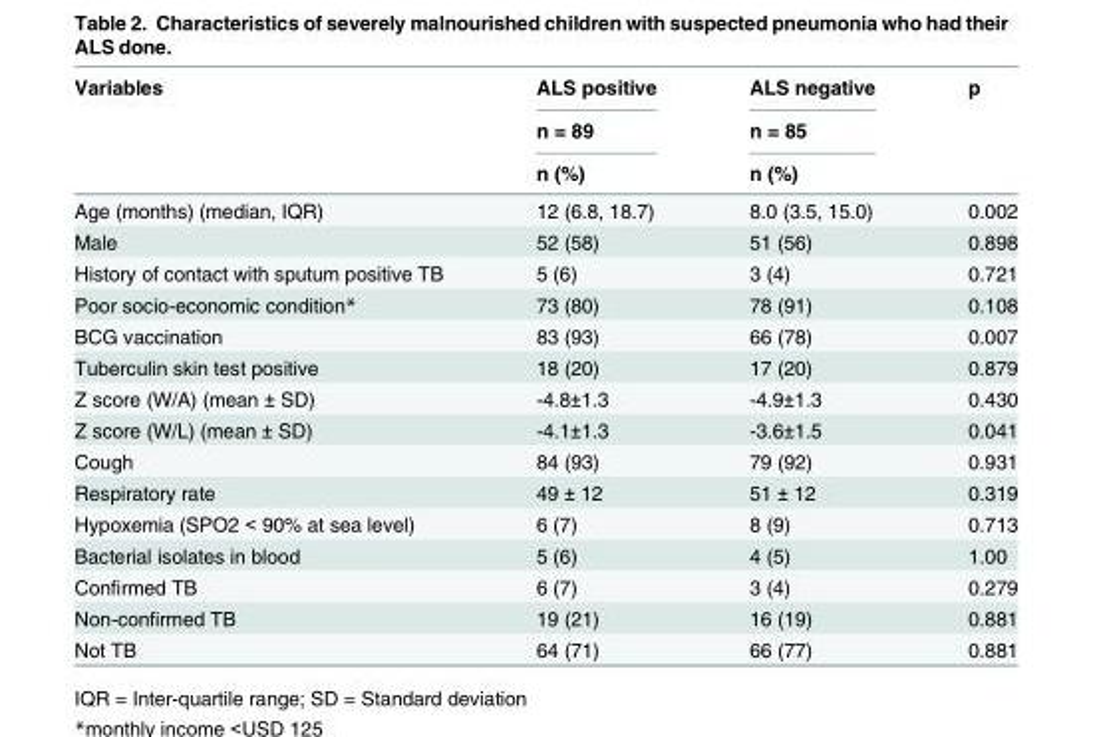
<table><thead><tr><td rowspan="3">Variables</td><td rowspan="3">ALS positive n = 89 n (%)</td><td rowspan="3">ALS negative n = 85 n (%)</td><td rowspan="3">p</td></tr><tr></tr><tr></tr></thead><tbody><tr><td>Age (months) (median, IQR)</td><td>12 (6.8, 18.7)</td><td>8.0 (3.5, 15.0)</td><td>0.002</td></tr><tr><td>Male</td><td>52 (58)</td><td>51 (56)</td><td>0.898</td></tr><tr><td>History of contact with sputum positive TB</td><td>5 (6)</td><td>3 (4)</td><td>0.721</td></tr><tr><td>Poor socio-economic condition*</td><td>73 (80)</td><td>78 (91)</td><td>0.108</td></tr><tr><td>BCG vaccination</td><td>83 (93)</td><td>66 (78)</td><td>0.007</td></tr><tr><td>Tuberculin skin test positive</td><td>18 (20)</td><td>17 (20)</td><td>0.879</td></tr><tr><td>Z score (W/A) (mean ± SD)</td><td>-4.8±1.3</td><td>-4.9±1.3</td><td>0.430</td></tr><tr><td>Z score (W/L) (mean ± SD)</td><td>-4.1±1.3</td><td>-3.6±1.5</td><td>0.041</td></tr><tr><td>Cough</td><td>84 (93)</td><td>79 (92)</td><td>0.931</td></tr><tr><td>Respiratory rate</td><td>49 ± 12</td><td>51 ± 12</td><td>0.319</td></tr><tr><td>Hypoxemia (SPO2 &lt; 90% at sea level)</td><td>6 (7)</td><td>8 (9)</td><td>0.713</td></tr><tr><td>Bacterial isolates in blood</td><td>5 (6)</td><td>4 (5)</td><td>1.00</td></tr><tr><td>Confirmed TB</td><td>6 (7)</td><td>3 (4)</td><td>0.279</td></tr><tr><td>Non-confirmed TB</td><td>19 (21)</td><td>16 (19)</td><td>0.881</td></tr><tr><td>Not TB</td><td>64 (71)</td><td>66 (77)</td><td>0.881</td></tr></tbody></table>